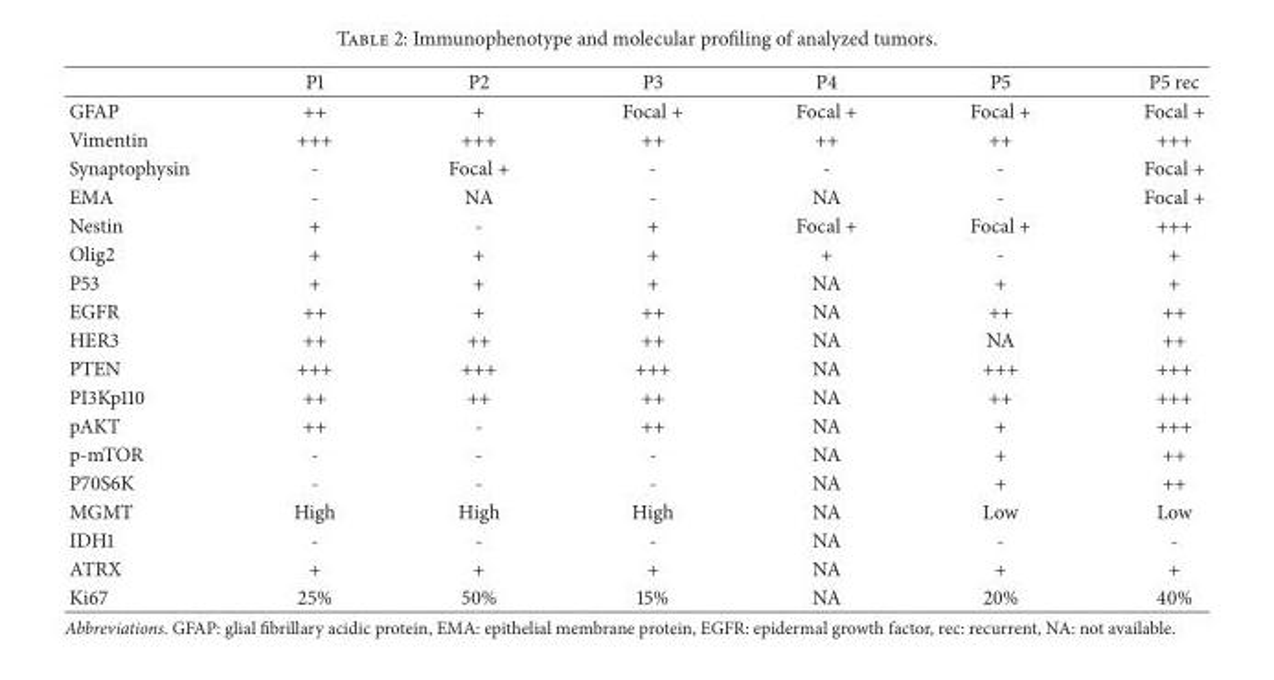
<table><thead><tr><td></td><td>P1</td><td>P2</td><td>P3</td><td>P4</td><td>P5</td><td>P5 rec</td></tr></thead><tbody><tr><td>GFAP</td><td>++</td><td>+</td><td>Focal +</td><td>Focal +</td><td>Focal +</td><td>Focal +</td></tr><tr><td>Vimentin</td><td>+++</td><td>+++</td><td>++</td><td>++</td><td>++</td><td>+++</td></tr><tr><td>Synaptophysin</td><td>-</td><td>Focal +</td><td>-</td><td>-</td><td>-</td><td>Focal +</td></tr><tr><td>EMA</td><td>-</td><td>NA</td><td>-</td><td>NA</td><td>-</td><td>Focal +</td></tr><tr><td>Nestin</td><td>+</td><td>-</td><td>+</td><td>Focal +</td><td>Focal +</td><td>+++</td></tr><tr><td>Olig2</td><td>+</td><td>+</td><td>+</td><td>+</td><td>-</td><td>+</td></tr><tr><td>P53</td><td>+</td><td>+</td><td>+</td><td>NA</td><td>+</td><td>+</td></tr><tr><td>EGFR</td><td>++</td><td>+</td><td>++</td><td>NA</td><td>++</td><td>++</td></tr><tr><td>HER3</td><td>++</td><td>++</td><td>++</td><td>NA</td><td>NA</td><td>++</td></tr><tr><td>PTEN</td><td>+++</td><td>+++</td><td>+++</td><td>NA</td><td>+++</td><td>+++</td></tr><tr><td>PI3Kp110</td><td>++</td><td>++</td><td>++</td><td>NA</td><td>++</td><td>+++</td></tr><tr><td>pAKT</td><td>++</td><td>-</td><td>++</td><td>NA</td><td>+</td><td>+++</td></tr><tr><td>p-mTOR</td><td>-</td><td>-</td><td>-</td><td>NA</td><td>+</td><td>++</td></tr><tr><td>P70S6K</td><td>-</td><td>-</td><td>-</td><td>NA</td><td>+</td><td>++</td></tr><tr><td>MGMT</td><td>High</td><td>High</td><td>High</td><td>NA</td><td>Low</td><td>Low</td></tr><tr><td>IDH1</td><td>-</td><td>-</td><td>-</td><td>NA</td><td>-</td><td>-</td></tr><tr><td>ATRX</td><td>+</td><td>+</td><td>+</td><td>NA</td><td>+</td><td>+</td></tr><tr><td>Ki67</td><td>25%</td><td>50%</td><td>15%</td><td>NA</td><td>20%</td><td>40%</td></tr></tbody></table>